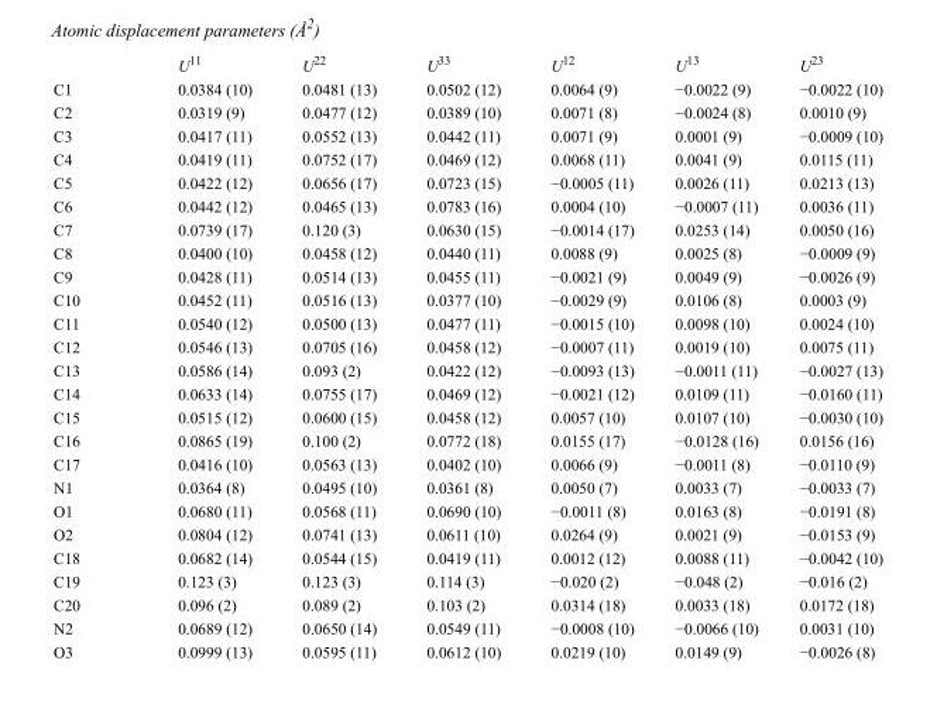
<table><thead><tr><td></td><td>U<sup>11</sup></td><td>U<sup>22</sup></td><td>U<sup>33</sup></td><td>U<sup>12</sup></td><td>U<sup>13</sup></td><td>U<sup>23</sup></td></tr></thead><tbody><tr><td>C1</td><td>0.0384 (10)</td><td>0.0481 (13)</td><td>0.0502 (12)</td><td>0.0064 (9)</td><td>−0.0022 (9)</td><td>−0.0022 (10)</td></tr><tr><td>C2</td><td>0.0319 (9)</td><td>0.0477 (12)</td><td>0.0389 (10)</td><td>0.0071 (8)</td><td>−0.0024 (8)</td><td>0.0010 (9)</td></tr><tr><td>C3</td><td>0.0417 (11)</td><td>0.0552 (13)</td><td>0.0442 (11)</td><td>0.0071 (9)</td><td>0.0001 (9)</td><td>−0.0009 (10)</td></tr><tr><td>C4</td><td>0.0419 (11)</td><td>0.0752 (17)</td><td>0.0469 (12)</td><td>0.0068 (11)</td><td>0.0041 (9)</td><td>0.0115 (11)</td></tr><tr><td>C5</td><td>0.0422 (12)</td><td>0.0656 (17)</td><td>0.0723 (15)</td><td>−0.0005 (11)</td><td>0.0026 (11)</td><td>0.0213 (13)</td></tr><tr><td>C6</td><td>0.0442 (12)</td><td>0.0465 (13)</td><td>0.0783 (16)</td><td>0.0004 (10)</td><td>−0.0007 (11)</td><td>0.0036 (11)</td></tr><tr><td>C7</td><td>0.0739 (17)</td><td>0.120 (3)</td><td>0.0630 (15)</td><td>−0.0014 (17)</td><td>0.0253 (14)</td><td>0.0050 (16)</td></tr><tr><td>C8</td><td>0.0400 (10)</td><td>0.0458 (12)</td><td>0.0440 (11)</td><td>0.0088 (9)</td><td>0.0025 (8)</td><td>−0.0009 (9)</td></tr><tr><td>C9</td><td>0.0428 (11)</td><td>0.0514 (13)</td><td>0.0455 (11)</td><td>−0.0021 (9)</td><td>0.0049 (9)</td><td>−0.0026 (9)</td></tr><tr><td>C10</td><td>0.0452 (11)</td><td>0.0516 (13)</td><td>0.0377 (10)</td><td>−0.0029 (9)</td><td>0.0106 (8)</td><td>0.0003 (9)</td></tr><tr><td>C11</td><td>0.0540 (12)</td><td>0.0500 (13)</td><td>0.0477 (11)</td><td>−0.0015 (10)</td><td>0.0098 (10)</td><td>0.0024 (10)</td></tr><tr><td>C12</td><td>0.0546 (13)</td><td>0.0705 (16)</td><td>0.0458 (12)</td><td>−0.0007 (11)</td><td>0.0019 (10)</td><td>0.0075 (11)</td></tr><tr><td>C13</td><td>0.0586 (14)</td><td>0.093 (2)</td><td>0.0422 (12)</td><td>−0.0093 (13)</td><td>−0.0011 (11)</td><td>−0.0027 (13)</td></tr><tr><td>C14</td><td>0.0633 (14)</td><td>0.0755 (17)</td><td>0.0469 (12)</td><td>−0.0021 (12)</td><td>0.0109 (11)</td><td>−0.0160 (11)</td></tr><tr><td>C15</td><td>0.0515 (12)</td><td>0.0600 (15)</td><td>0.0458 (12)</td><td>0.0057 (10)</td><td>0.0107 (10)</td><td>−0.0030 (10)</td></tr><tr><td>C16</td><td>0.0865 (19)</td><td>0.100 (2)</td><td>0.0772 (18)</td><td>0.0155 (17)</td><td>−0.0128 (16)</td><td>0.0156 (16)</td></tr><tr><td>C17</td><td>0.0416 (10)</td><td>0.0563 (13)</td><td>0.0402 (10)</td><td>0.0066 (9)</td><td>−0.0011 (8)</td><td>−0.0110 (9)</td></tr><tr><td>N1</td><td>0.0364 (8)</td><td>0.0495 (10)</td><td>0.0361 (8)</td><td>0.0050 (7)</td><td>0.0033 (7)</td><td>−0.0033 (7)</td></tr><tr><td>O1</td><td>0.0680 (11)</td><td>0.0568 (11)</td><td>0.0690 (10)</td><td>−0.0011 (8)</td><td>0.0163 (8)</td><td>−0.0191 (8)</td></tr><tr><td>O2</td><td>0.0804 (12)</td><td>0.0741 (13)</td><td>0.0611 (10)</td><td>0.0264 (9)</td><td>0.0021 (9)</td><td>−0.0153 (9)</td></tr><tr><td>C18</td><td>0.0682 (14)</td><td>0.0544 (15)</td><td>0.0419 (11)</td><td>0.0012 (12)</td><td>0.0088 (11)</td><td>−0.0042 (10)</td></tr><tr><td>C19</td><td>0.123 (3)</td><td>0.123 (3)</td><td>0.114 (3)</td><td>−0.020 (2)</td><td>−0.048 (2)</td><td>−0.016 (2)</td></tr><tr><td>C20</td><td>0.096 (2)</td><td>0.089 (2)</td><td>0.103 (2)</td><td>0.0314 (18)</td><td>0.0033 (18)</td><td>0.0172 (18)</td></tr><tr><td>N2</td><td>0.0689 (12)</td><td>0.0650 (14)</td><td>0.0549 (11)</td><td>−0.0008 (10)</td><td>−0.0066 (10)</td><td>0.0031 (10)</td></tr><tr><td>O3</td><td>0.0999 (13)</td><td>0.0595 (11)</td><td>0.0612 (10)</td><td>0.0219 (10)</td><td>0.0149 (9)</td><td>−0.0026 (8)</td></tr></tbody></table>